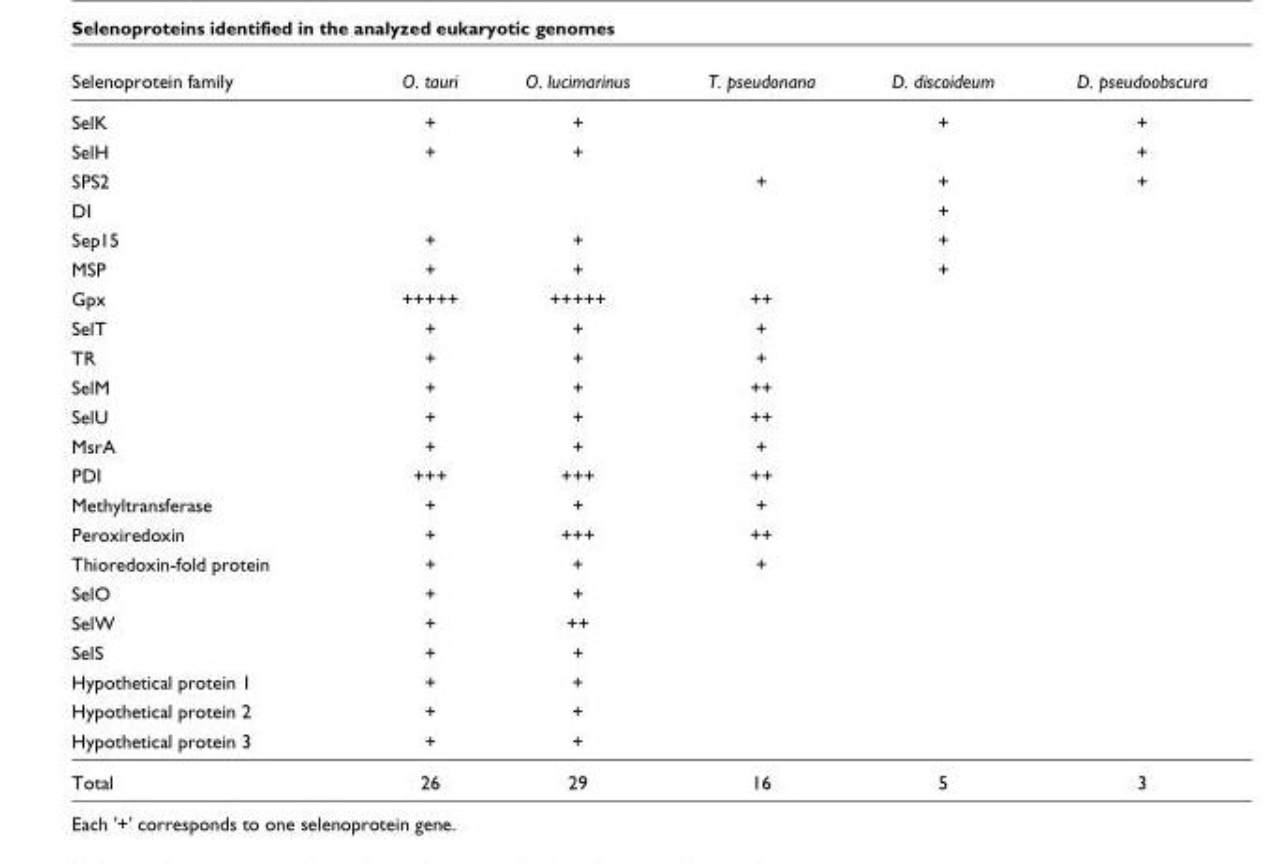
<table><thead><tr><td>Selenoprotein family</td><td>O. tauri</td><td>O. lucimarinus</td><td>T. pseudonana</td><td>D. discoideum</td><td>D. pseudoobscura</td></tr></thead><tbody><tr><td>SelK</td><td>+</td><td>+</td><td></td><td>+</td><td>+</td></tr><tr><td>SelH</td><td>+</td><td>+</td><td></td><td></td><td>+</td></tr><tr><td>SPS2</td><td></td><td></td><td>+</td><td>+</td><td>+</td></tr><tr><td>DI</td><td></td><td></td><td></td><td>+</td><td></td></tr><tr><td>Sep15</td><td>+</td><td>+</td><td></td><td>+</td><td></td></tr><tr><td>MSP</td><td>+</td><td>+</td><td></td><td>+</td><td></td></tr><tr><td>Gpx</td><td>+++++</td><td>+++++</td><td>++</td><td></td><td></td></tr><tr><td>SelT</td><td>+</td><td>+</td><td>+</td><td></td><td></td></tr><tr><td>TR</td><td>+</td><td>+</td><td>+</td><td></td><td></td></tr><tr><td>SelM</td><td>+</td><td>+</td><td>++</td><td></td><td></td></tr><tr><td>SelU</td><td>+</td><td>+</td><td>++</td><td></td><td></td></tr><tr><td>MsrA</td><td>+</td><td>+</td><td>+</td><td></td><td></td></tr><tr><td>PDI</td><td>+++</td><td>+++</td><td>++</td><td></td><td></td></tr><tr><td>Methyltransferase</td><td>+</td><td>+</td><td>+</td><td></td><td></td></tr><tr><td>Peroxiredoxin</td><td>+</td><td>+++</td><td>++</td><td></td><td></td></tr><tr><td>Thioredoxin-fold protein</td><td>+</td><td>+</td><td>+</td><td></td><td></td></tr><tr><td>SelO</td><td>+</td><td>+</td><td></td><td></td><td></td></tr><tr><td>SelW</td><td>+</td><td>++</td><td></td><td></td><td></td></tr><tr><td>SelS</td><td>+</td><td>+</td><td></td><td></td><td></td></tr><tr><td>Hypothetical protein 1</td><td>+</td><td>+</td><td></td><td></td><td></td></tr><tr><td>Hypothetical protein 2</td><td>+</td><td>+</td><td></td><td></td><td></td></tr><tr><td>Hypothetical protein 3</td><td>+</td><td>+</td><td></td><td></td><td></td></tr><tr><td>Total</td><td>26</td><td>29</td><td>16</td><td>5</td><td>3</td></tr></tbody></table>